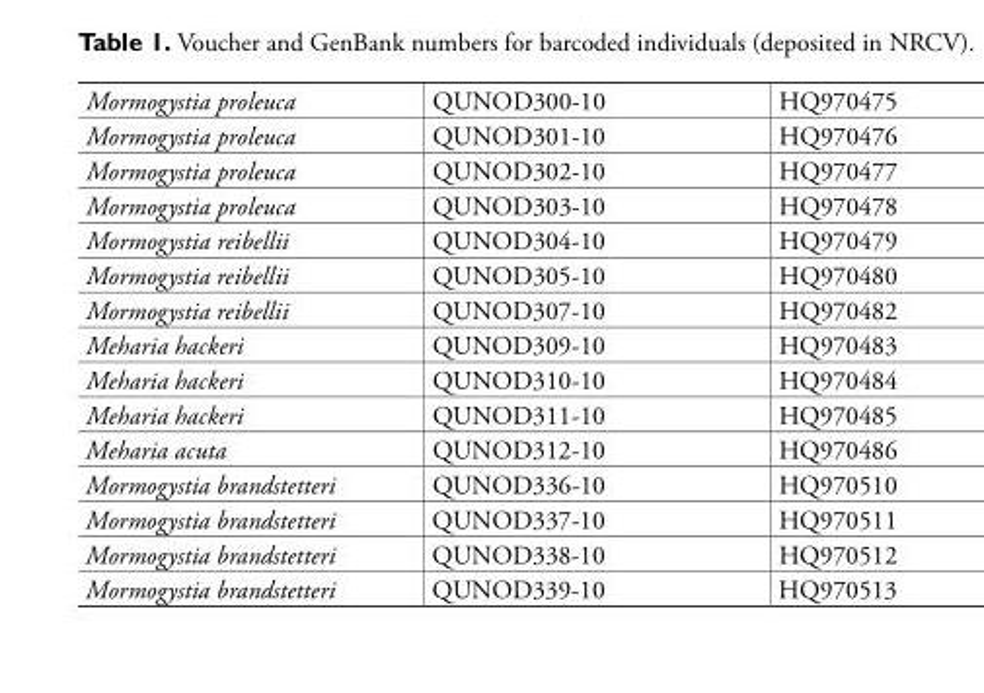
<table><tbody><tr><td>Mormogystia proleuca</td><td>QUNOD300-10</td><td>HQ970475</td></tr><tr><td>Mormogystia proleuca</td><td>QUNOD301-10</td><td>HQ970476</td></tr><tr><td>Mormogystia proleuca</td><td>QUNOD302-10</td><td>HQ970477</td></tr><tr><td>Mormogystia proleuca</td><td>QUNOD303-10</td><td>HQ970478</td></tr><tr><td>Mormogystia reibellii</td><td>QUNOD304-10</td><td>HQ970479</td></tr><tr><td>Mormogystia reibellii</td><td>QUNOD305-10</td><td>HQ970480</td></tr><tr><td>Mormogystia reibellii</td><td>QUNOD307-10</td><td>HQ970482</td></tr><tr><td>Meharia hackeri</td><td>QUNOD309-10</td><td>HQ970483</td></tr><tr><td>Meharia hackeri</td><td>QUNOD310-10</td><td>HQ970484</td></tr><tr><td>Meharia hackeri</td><td>QUNOD311-10</td><td>HQ970485</td></tr><tr><td>Meharia acuta</td><td>QUNOD312-10</td><td>HQ970486</td></tr><tr><td>Mormogystia brandstetteri</td><td>QUNOD336-10</td><td>HQ970510</td></tr><tr><td>Mormogystia brandstetteri</td><td>QUNOD337-10</td><td>HQ970511</td></tr><tr><td>Mormogystia brandstetteri</td><td>QUNOD338-10</td><td>HQ970512</td></tr><tr><td>Mormogystia brandstetteri</td><td>QUNOD339-10</td><td>HQ970513</td></tr></tbody></table>